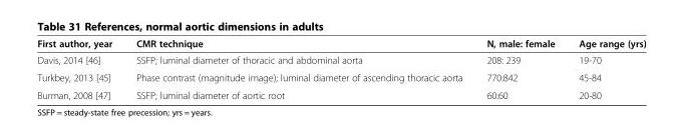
<table><thead><tr><td>First author, year</td><td>CMR technique</td><td>N, male: female</td><td>Age range (yrs)</td></tr></thead><tbody><tr><td>Davis, 2014 [46]</td><td>SSFP; luminal diameter of thoracic and abdominal aorta</td><td>208: 239</td><td>19-70</td></tr><tr><td>Turkbey, 2013 [45]</td><td>Phase contrast (magnitude image); luminal diameter of ascending thoracic aorta</td><td>770:842</td><td>45-84</td></tr><tr><td>Burman, 2008 [47]</td><td>SSFP; luminal diameter of aortic root</td><td>60:60</td><td>20-80</td></tr></tbody></table>